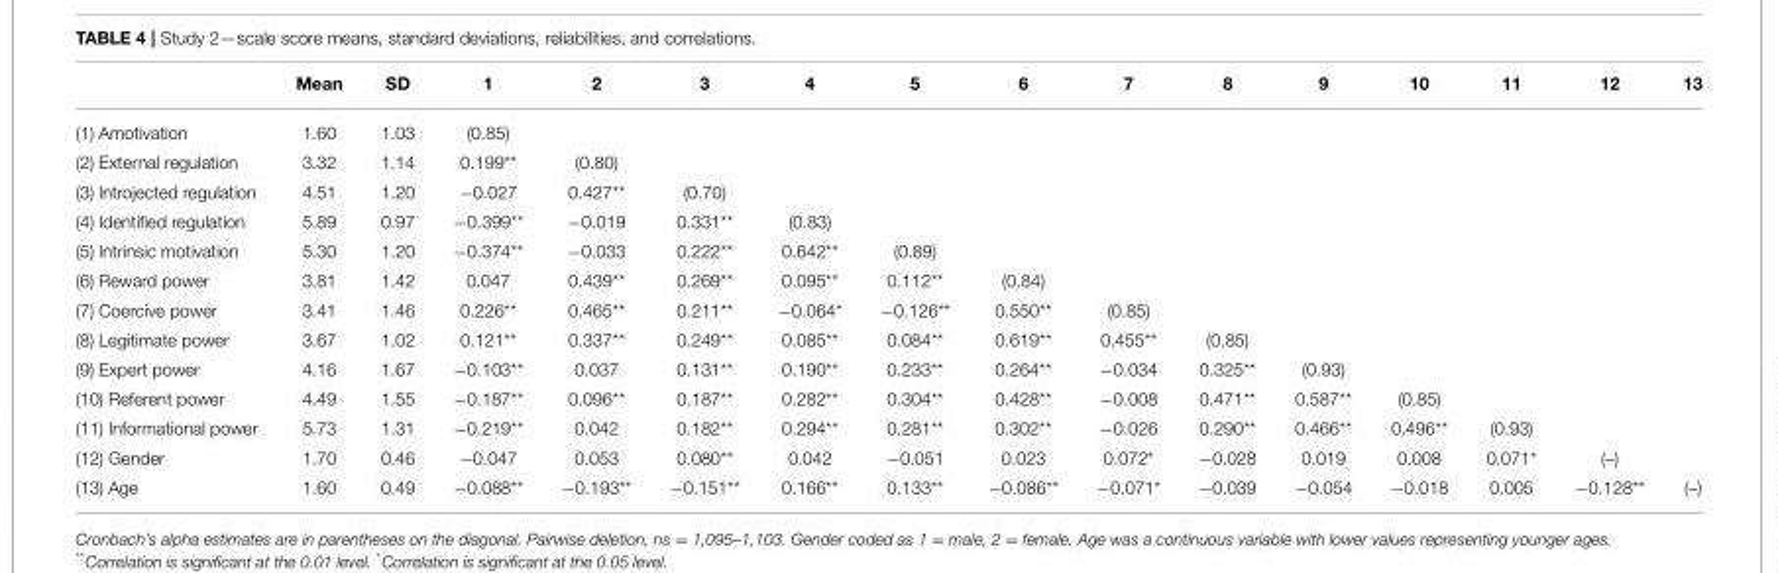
<table><thead><tr><td></td><td>Mean</td><td>SD</td><td>1</td><td>2</td><td>3</td><td>4</td><td>5</td><td>6</td><td>7</td><td>8</td><td>9</td><td>10</td><td>11</td><td>12</td><td>13</td></tr></thead><tbody><tr><td>(1) Amotivation</td><td>1.60</td><td>1.03</td><td>(0.85)</td><td></td><td></td><td></td><td></td><td></td><td></td><td></td><td></td><td></td><td></td><td></td><td></td></tr><tr><td>(2) External regulation</td><td>3.32</td><td>1.14</td><td>0.199**</td><td>(0.80)</td><td></td><td></td><td></td><td></td><td></td><td></td><td></td><td></td><td></td><td></td><td></td></tr><tr><td>(3) Introjected regulation</td><td>4.51</td><td>1.20</td><td>−0.027</td><td>0.427**</td><td>(0.70)</td><td></td><td></td><td></td><td></td><td></td><td></td><td></td><td></td><td></td><td></td></tr><tr><td>(4) Identified regulation</td><td>5.89</td><td>0.97</td><td>−0.399**</td><td>−0.019</td><td>0.331**</td><td>(0.83)</td><td></td><td></td><td></td><td></td><td></td><td></td><td></td><td></td><td></td></tr><tr><td>(5) Intrinsic motivation</td><td>5.30</td><td>1.20</td><td>−0.374**</td><td>−0.033</td><td>0.222**</td><td>0.642**</td><td>(0.89)</td><td></td><td></td><td></td><td></td><td></td><td></td><td></td><td></td></tr><tr><td>(6) Reward power</td><td>3.81</td><td>1.42</td><td>0.047</td><td>0.439**</td><td>0.269**</td><td>0.095**</td><td>0.112**</td><td>(0.84)</td><td></td><td></td><td></td><td></td><td></td><td></td><td></td></tr><tr><td>(7) Coercive power</td><td>3.41</td><td>1.46</td><td>0.226**</td><td>0.465**</td><td>0.211**</td><td>−0.064*</td><td>−0.126**</td><td>0.550**</td><td>(0.85)</td><td></td><td></td><td></td><td></td><td></td><td></td></tr><tr><td>(8) Legitimate power</td><td>3.67</td><td>1.02</td><td>0.121**</td><td>0.337**</td><td>0.249**</td><td>0.085**</td><td>0.084**</td><td>0.619**</td><td>0.455**</td><td>(0.85)</td><td></td><td></td><td></td><td></td><td></td></tr><tr><td>(9) Expert power</td><td>4.16</td><td>1.67</td><td>−0.103**</td><td>0.037</td><td>0.131**</td><td>0.190**</td><td>0.233**</td><td>0.264**</td><td>−0.034</td><td>0.325**</td><td>(0.93)</td><td></td><td></td><td></td><td></td></tr><tr><td>(10) Referent power</td><td>4.49</td><td>1.55</td><td>−0.187**</td><td>0.096**</td><td>0.187**</td><td>0.282**</td><td>0.304**</td><td>0.428**</td><td>−0.008</td><td>0.471**</td><td>0.587**</td><td>(0.85)</td><td></td><td></td><td></td></tr><tr><td>(11) Informational power</td><td>5.73</td><td>1.31</td><td>−0.219**</td><td>0.042</td><td>0.182**</td><td>0.294**</td><td>0.281**</td><td>0.302**</td><td>−0.026</td><td>0.290**</td><td>0.466**</td><td>0.496**</td><td>(0.93)</td><td></td><td></td></tr><tr><td>(12) Gender</td><td>1.70</td><td>0.46</td><td>−0.047</td><td>0.053</td><td>0.080**</td><td>0.042</td><td>−0.051</td><td>0.023</td><td>0.072*</td><td>−0.028</td><td>0.019</td><td>0.008</td><td>0.071*</td><td>(–)</td><td></td></tr><tr><td>(13) Age</td><td>1.60</td><td>0.49</td><td>−0.088**</td><td>−0.193**</td><td>−0.151**</td><td>0.166**</td><td>0.133**</td><td>−0.086**</td><td>−0.071*</td><td>−0.039</td><td>−0.054</td><td>−0.018</td><td>0.005</td><td>−0.128**</td><td>(–)</td></tr></tbody></table>